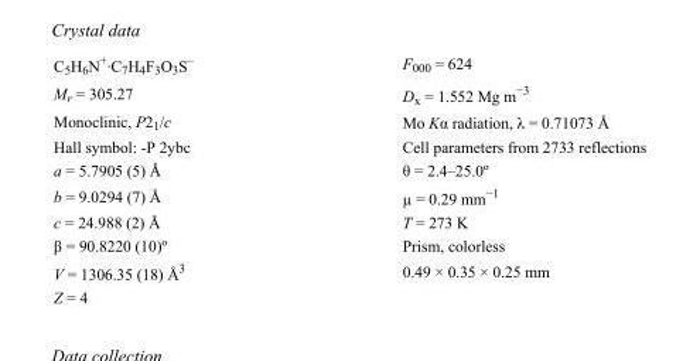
<table><tbody><tr><td>C<sub>5</sub>H<sub>6</sub>N<sup>+</sup>·C<sub>7</sub>H<sub>4</sub>F<sub>3</sub>O<sub>3</sub>S<sup>–</sup></td><td>F000 = 624</td></tr><tr><td>M<sub>r</sub> = 305.27</td><td>D<sub>x</sub> = 1.552 Mg m<sup>−3</sup></td></tr><tr><td>Monoclinic, P2<sub>1</sub>/c</td><td>Mo Kα radiation, λ = 0.71073 Å</td></tr><tr><td>Hall symbol: -P 2ybc</td><td>Cell parameters from 2733 reflections</td></tr><tr><td>a = 5.7905 (5) Å</td><td>θ = 2.4–25.0º</td></tr><tr><td>b = 9.0294 (7) Å</td><td>µ = 0.29 mm<sup>−1</sup></td></tr><tr><td>c = 24.988 (2) Å</td><td>T = 273 K</td></tr><tr><td>β = 90.8220 (10)º</td><td>Prism, colorless</td></tr><tr><td>V = 1306.35 (18) Å<sup>3</sup></td><td>0.49 × 0.35 × 0.25 mm</td></tr><tr><td>Z = 4</td><td></td></tr></tbody></table>